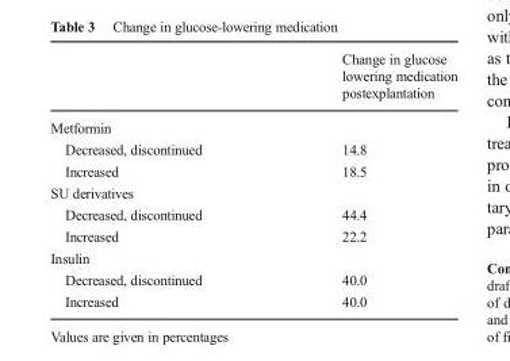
<table><thead><tr><td></td><td>Change in glucose lowering medication postexplantation</td></tr></thead><tbody><tr><td colspan="2">Metformin</td></tr><tr><td>Decreased, discontinued</td><td>14.8</td></tr><tr><td>Increased</td><td>18.5</td></tr><tr><td colspan="2">SU derivatives</td></tr><tr><td>Decreased, discontinued</td><td>44.4</td></tr><tr><td>Increased</td><td>22.2</td></tr><tr><td colspan="2">Insulin</td></tr><tr><td>Decreased, discontinued</td><td>40.0</td></tr><tr><td>Increased</td><td>40.0</td></tr></tbody></table>